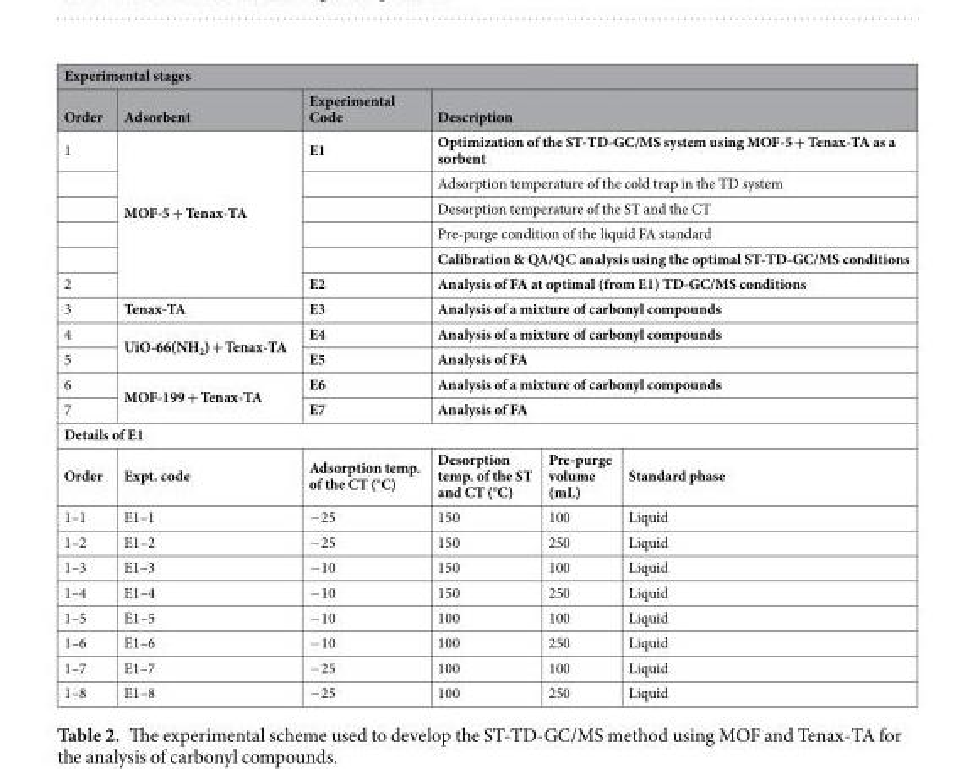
<table><thead><tr><td colspan="6">Experimental stages</td></tr><tr><td>Order</td><td>Adsorbent</td><td>Experimental Code</td><td colspan="3">Description</td></tr></thead><tbody><tr><td rowspan="5">1</td><td rowspan="6">MOF-5 + Tenax-TA</td><td>E1</td><td colspan="3">Optimization of the ST-TD-GC/MS system using MOF-5 + Tenax-TA as a sorbent</td></tr><tr><td></td><td colspan="3">Adsorption temperature of the cold trap in the TD system</td></tr><tr><td></td><td colspan="3">Desorption temperature of the ST and the CT</td></tr><tr><td></td><td colspan="3">Pre-purge condition of the liquid FA standard</td></tr><tr><td></td><td colspan="3">Calibration &amp; QA/QC analysis using the optimal ST-TD-GC/MS conditions</td></tr><tr><td>2</td><td>E2</td><td colspan="3">Analysis of FA at optimal (from E1) TD-GC/MS conditions</td></tr><tr><td>3</td><td>Tenax-TA</td><td>E3</td><td colspan="3">Analysis of a mixture of carbonyl compounds</td></tr><tr><td>4</td><td rowspan="2">UiO-66(NH<sub>2</sub>) + Tenax-TA</td><td>E4</td><td colspan="3">Analysis of a mixture of carbonyl compounds</td></tr><tr><td>5</td><td>E5</td><td colspan="3">Analysis of FA</td></tr><tr><td>6</td><td rowspan="2">MOF-199 + Tenax-TA</td><td>E6</td><td colspan="3">Analysis of a mixture of carbonyl compounds</td></tr><tr><td>7</td><td>E7</td><td colspan="3">Analysis of FA</td></tr><tr><td colspan="6">Details of E1</td></tr><tr><td>Order</td><td>Expt. code</td><td>Adsorption temp. of the CT (°C)</td><td>Desorption temp. of the ST and CT (°C)</td><td>Pre-purge volume (mL)</td><td>Standard phase</td></tr><tr><td>1–1</td><td>E1–1</td><td>−25</td><td>150</td><td>100</td><td>Liquid</td></tr><tr><td>1–2</td><td>E1–2</td><td>−25</td><td>150</td><td>250</td><td>Liquid</td></tr><tr><td>1–3</td><td>E1–3</td><td>−10</td><td>150</td><td>100</td><td>Liquid</td></tr><tr><td>1–4</td><td>E1–4</td><td>−10</td><td>150</td><td>250</td><td>Liquid</td></tr><tr><td>1–5</td><td>E1–5</td><td>−10</td><td>100</td><td>100</td><td>Liquid</td></tr><tr><td>1–6</td><td>E1–6</td><td>−10</td><td>100</td><td>250</td><td>Liquid</td></tr><tr><td>1–7</td><td>E1–7</td><td>−25</td><td>100</td><td>100</td><td>Liquid</td></tr><tr><td>1–8</td><td>E1–8</td><td>−25</td><td>100</td><td>250</td><td>Liquid</td></tr></tbody></table>